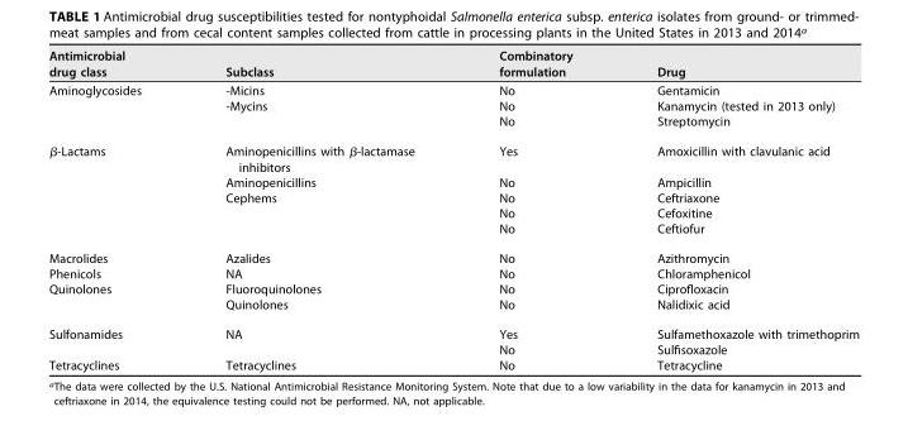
<table><thead><tr><td>Antimicrobial drug class</td><td>Subclass</td><td>Combinatory formulation</td><td>Drug</td></tr></thead><tbody><tr><td rowspan="3">Aminoglycosides</td><td>-Micins</td><td>No</td><td>Gentamicin</td></tr><tr><td>-Mycins</td><td>No</td><td>Kanamycin (tested in 2013 only)</td></tr><tr><td></td><td>No</td><td>Streptomycin</td></tr><tr><td rowspan="5">β-Lactams</td><td>Aminopenicillins with β-lactamase inhibitors</td><td>Yes</td><td>Amoxicillin with clavulanic acid</td></tr><tr><td>Aminopenicillins</td><td>No</td><td>Ampicillin</td></tr><tr><td>Cephems</td><td>No</td><td>Ceftriaxone</td></tr><tr><td></td><td>No</td><td>Cefoxitine</td></tr><tr><td></td><td>No</td><td>Ceftiofur</td></tr><tr><td>Macrolides</td><td>Azalides</td><td>No</td><td>Azithromycin</td></tr><tr><td>Phenicols</td><td>NA</td><td>No</td><td>Chloramphenicol</td></tr><tr><td rowspan="2">Quinolones</td><td>Fluoroquinolones</td><td>No</td><td>Ciprofloxacin</td></tr><tr><td>Quinolones</td><td>No</td><td>Nalidixic acid</td></tr><tr><td rowspan="2">Sulfonamides</td><td>NA</td><td>Yes</td><td>Sulfamethoxazole with trimethoprim</td></tr><tr><td></td><td>No</td><td>Sulfisoxazole</td></tr><tr><td>Tetracyclines</td><td>Tetracyclines</td><td>No</td><td>Tetracycline</td></tr></tbody></table>